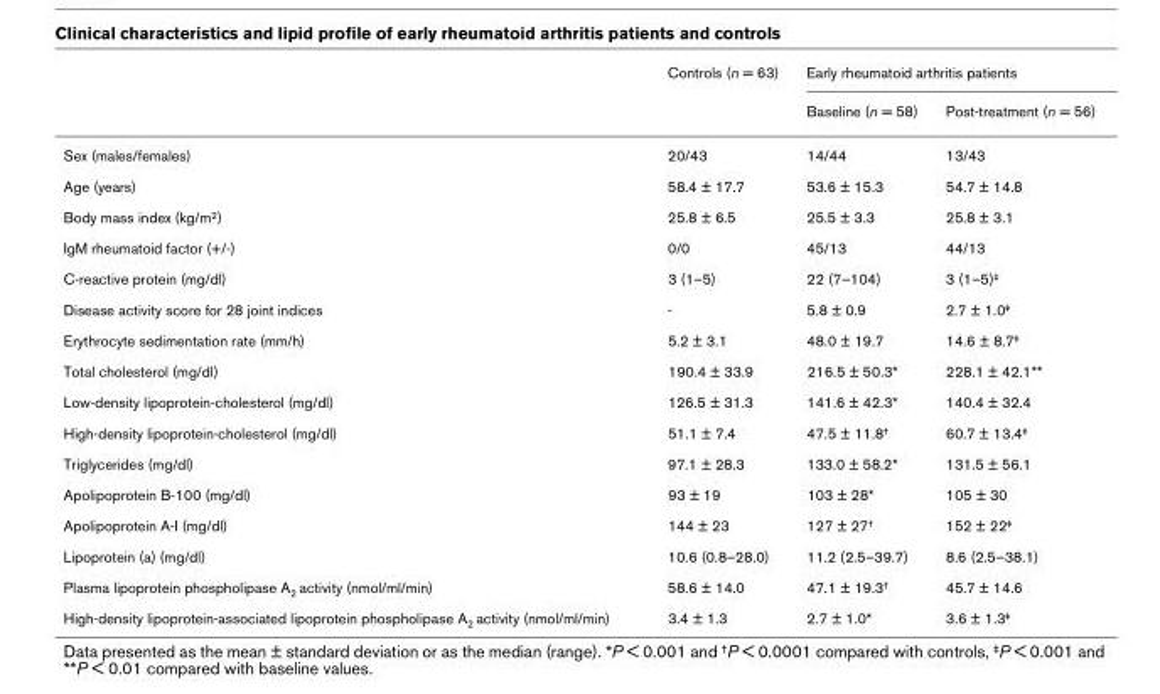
<table><thead><tr><td rowspan="2"></td><td rowspan="2">Controls (n = 63)</td><td colspan="2">Early rheumatoid arthritis patients</td></tr><tr><td>Baseline (n = 58)</td><td>Post-treatment (n = 56)</td></tr></thead><tbody><tr><td>Sex (males/females)</td><td>20/43</td><td>14/44</td><td>13/43</td></tr><tr><td>Age (years)</td><td>58.4 ± 17.7</td><td>53.6 ± 15.3</td><td>54.7 ± 14.8</td></tr><tr><td>Body mass index (kg/m2)</td><td>25.8 ± 6.5</td><td>25.5 ± 3.3</td><td>25.8 ± 3.1</td></tr><tr><td>IgM rheumatoid factor (+/-)</td><td>0/0</td><td>45/13</td><td>44/13</td></tr><tr><td>C-reactive protein (mg/dl)</td><td>3 (1–5)</td><td>22 (7–104)</td><td>3 (1–5)‡</td></tr><tr><td>Disease activity score for 28 joint indices</td><td>-</td><td>5.8 ± 0.9</td><td>2.7 ± 1.0‡</td></tr><tr><td>Erythrocyte sedimentation rate (mm/h)</td><td>5.2 ± 3.1</td><td>48.0 ± 19.7</td><td>14.6 ± 8.7‡</td></tr><tr><td>Total cholesterol (mg/dl)</td><td>190.4 ± 33.9</td><td>216.5 ± 50.3*</td><td>228.1 ± 42.1**</td></tr><tr><td>Low-density lipoprotein-cholesterol (mg/dl)</td><td>126.5 ± 31.3</td><td>141.6 ± 42.3*</td><td>140.4 ± 32.4</td></tr><tr><td>High-density lipoprotein-cholesterol (mg/dl)</td><td>51.1 ± 7.4</td><td>47.5 ± 11.8†</td><td>60.7 ± 13.4‡</td></tr><tr><td>Triglycerides (mg/dl)</td><td>97.1 ± 28.3</td><td>133.0 ± 58.2*</td><td>131.5 ± 56.1</td></tr><tr><td>Apolipoprotein B-100 (mg/dl)</td><td>93 ± 19</td><td>103 ± 28*</td><td>105 ± 30</td></tr><tr><td>Apolipoprotein A-I (mg/dl)</td><td>144 ± 23</td><td>127 ± 27†</td><td>152 ± 22‡</td></tr><tr><td>Lipoprotein (a) (mg/dl)</td><td>10.6 (0.8–28.0)</td><td>11.2 (2.5–39.7)</td><td>8.6 (2.5–38.1)</td></tr><tr><td>Plasma lipoprotein phospholipase A2 activity (nmol/ml/min)</td><td>58.6 ± 14.0</td><td>47.1 ± 19.3†</td><td>45.7 ± 14.6</td></tr><tr><td>High-density lipoprotein-associated lipoprotein phospholipase A2 activity (nmol/ml/min)</td><td>3.4 ± 1.3</td><td>2.7 ± 1.0*</td><td>3.6 ± 1.3‡</td></tr></tbody></table>